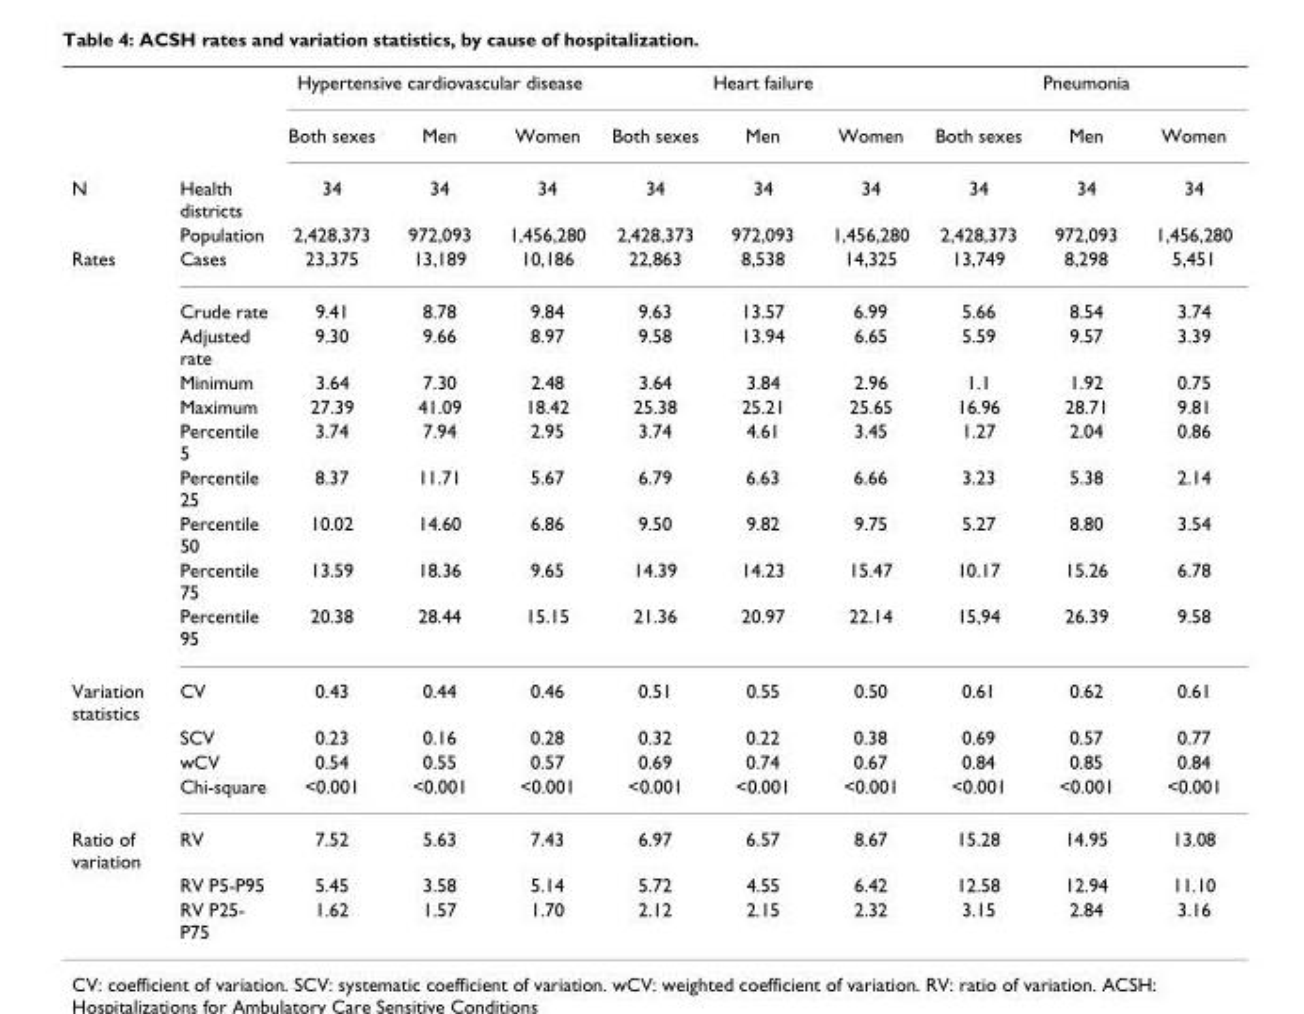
<table><thead><tr><td rowspan="2"></td><td rowspan="2"></td><td colspan="3">Hypertensive cardiovascular disease</td><td colspan="3">Heart failure</td><td colspan="3">Pneumonia</td></tr><tr><td>Both sexes</td><td>Men</td><td>Women</td><td>Both sexes</td><td>Men</td><td>Women</td><td>Both sexes</td><td>Men</td><td>Women</td></tr></thead><tbody><tr><td rowspan="2">N</td><td>Health districts</td><td>34</td><td>34</td><td>34</td><td>34</td><td>34</td><td>34</td><td>34</td><td>34</td><td>34</td></tr><tr><td>Population</td><td>2,428,373</td><td>972,093</td><td>1,456,280</td><td>2,428,373</td><td>972,093</td><td>1,456,280</td><td>2,428,373</td><td>972,093</td><td>1,456,280</td></tr><tr><td rowspan="10">Rates</td><td>Cases</td><td>23,375</td><td>13,189</td><td>10,186</td><td>22,863</td><td>8,538</td><td>14,325</td><td>13,749</td><td>8,298</td><td>5,451</td></tr><tr><td>Crude rate</td><td>9.41</td><td>8.78</td><td>9.84</td><td>9.63</td><td>13.57</td><td>6.99</td><td>5.66</td><td>8.54</td><td>3.74</td></tr><tr><td>Adjusted rate</td><td>9.30</td><td>9.66</td><td>8.97</td><td>9.58</td><td>13.94</td><td>6.65</td><td>5.59</td><td>9.57</td><td>3.39</td></tr><tr><td>Minimum</td><td>3.64</td><td>7.30</td><td>2.48</td><td>3.64</td><td>3.84</td><td>2.96</td><td>1.1</td><td>1.92</td><td>0.75</td></tr><tr><td>Maximum</td><td>27.39</td><td>41.09</td><td>18.42</td><td>25.38</td><td>25.21</td><td>25.65</td><td>16.96</td><td>28.71</td><td>9.81</td></tr><tr><td>Percentile 5</td><td>3.74</td><td>7.94</td><td>2.95</td><td>3.74</td><td>4.61</td><td>3.45</td><td>1.27</td><td>2.04</td><td>0.86</td></tr><tr><td>Percentile 25</td><td>8.37</td><td>11.71</td><td>5.67</td><td>6.79</td><td>6.63</td><td>6.66</td><td>3.23</td><td>5.38</td><td>2.14</td></tr><tr><td>Percentile 50</td><td>10.02</td><td>14.60</td><td>6.86</td><td>9.50</td><td>9.82</td><td>9.75</td><td>5.27</td><td>8.80</td><td>3.54</td></tr><tr><td>Percentile 75</td><td>13.59</td><td>18.36</td><td>9.65</td><td>14.39</td><td>14.23</td><td>15.47</td><td>10.17</td><td>15.26</td><td>6.78</td></tr><tr><td>Percentile 95</td><td>20.38</td><td>28.44</td><td>15.15</td><td>21.36</td><td>20.97</td><td>22.14</td><td>15,94</td><td>26.39</td><td>9.58</td></tr><tr><td rowspan="4">Variation statistics</td><td>CV</td><td>0.43</td><td>0.44</td><td>0.46</td><td>0.51</td><td>0.55</td><td>0.50</td><td>0.61</td><td>0.62</td><td>0.61</td></tr><tr><td>SCV</td><td>0.23</td><td>0.16</td><td>0.28</td><td>0.32</td><td>0.22</td><td>0.38</td><td>0.69</td><td>0.57</td><td>0.77</td></tr><tr><td>wCV</td><td>0.54</td><td>0.55</td><td>0.57</td><td>0.69</td><td>0.74</td><td>0.67</td><td>0.84</td><td>0.85</td><td>0.84</td></tr><tr><td>Chi-square</td><td>&lt;0.001</td><td>&lt;0.001</td><td>&lt;0.001</td><td>&lt;0.001</td><td>&lt;0.001</td><td>&lt;0.001</td><td>&lt;0.001</td><td>&lt;0.001</td><td>&lt;0.001</td></tr><tr><td rowspan="3">Ratio of variation</td><td>RV</td><td>7.52</td><td>5.63</td><td>7.43</td><td>6.97</td><td>6.57</td><td>8.67</td><td>15.28</td><td>14.95</td><td>13.08</td></tr><tr><td>RV P5-P95</td><td>5.45</td><td>3.58</td><td>5.14</td><td>5.72</td><td>4.55</td><td>6.42</td><td>12.58</td><td>12.94</td><td>11.10</td></tr><tr><td>RV P25- P75</td><td>1.62</td><td>1.57</td><td>1.70</td><td>2.12</td><td>2.15</td><td>2.32</td><td>3.15</td><td>2.84</td><td>3.16</td></tr></tbody></table>